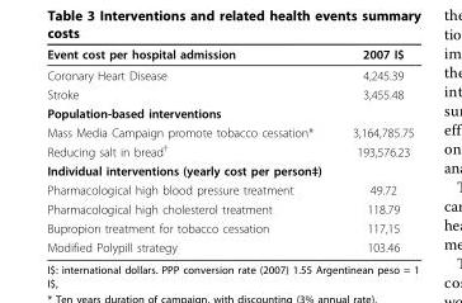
<table><thead><tr><td>Event cost per hospital admission</td><td>2007 I$</td></tr></thead><tbody><tr><td>Coronary Heart Disease</td><td>4,245.39</td></tr><tr><td>Stroke</td><td>3,455.48</td></tr><tr><td colspan="2">Population-based interventions</td></tr><tr><td>Mass Media Campaign promote tobacco cessation*</td><td>3,164,785.75</td></tr><tr><td>Reducing salt in bread<sup>†</sup></td><td>193,576.23</td></tr><tr><td colspan="2">Individual interventions (yearly cost per person‡)</td></tr><tr><td>Pharmacological high blood pressure treatment</td><td>49.72</td></tr><tr><td>Pharmacological high cholesterol treatment</td><td>118.79</td></tr><tr><td>Bupropion treatment for tobacco cessation</td><td>117,15</td></tr><tr><td>Modified Polypill strategy</td><td>103.46</td></tr></tbody></table>